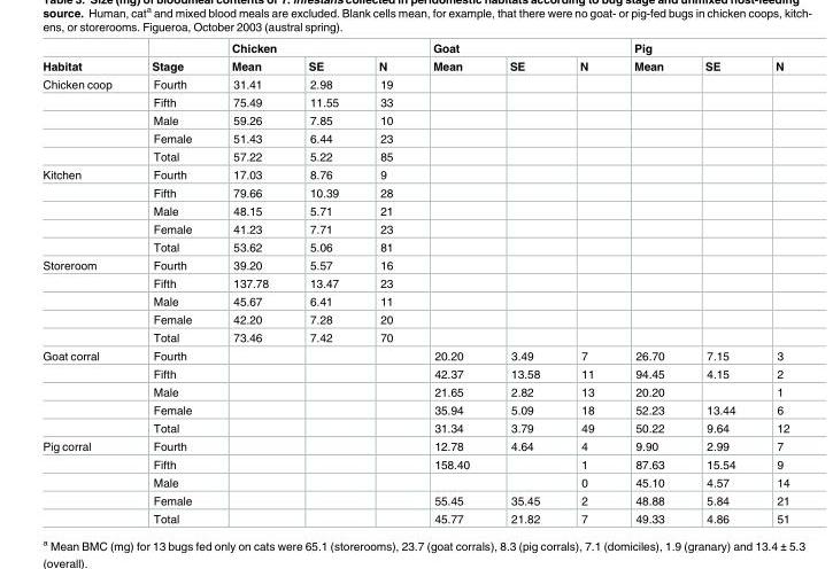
<table><thead><tr><td rowspan="2">Habitat</td><td rowspan="2">Stage</td><td colspan="3">Chicken</td><td colspan="3">Goat</td><td colspan="3">Pig</td></tr><tr><td>Mean</td><td>SE</td><td>N</td><td>Mean</td><td>SE</td><td>N</td><td>Mean</td><td>SE</td><td>N</td></tr></thead><tbody><tr><td rowspan="5">Chicken coop</td><td>Fourth</td><td>31.41</td><td>2.98</td><td>19</td><td></td><td></td><td></td><td></td><td></td><td></td></tr><tr><td>Fifth</td><td>75.49</td><td>11.55</td><td>33</td><td></td><td></td><td></td><td></td><td></td><td></td></tr><tr><td>Male</td><td>59.26</td><td>7.85</td><td>10</td><td></td><td></td><td></td><td></td><td></td><td></td></tr><tr><td>Female</td><td>51.43</td><td>6.44</td><td>23</td><td></td><td></td><td></td><td></td><td></td><td></td></tr><tr><td>Total</td><td>57.22</td><td>5.22</td><td>85</td><td></td><td></td><td></td><td></td><td></td><td></td></tr><tr><td rowspan="5">Kitchen</td><td>Fourth</td><td>17.03</td><td>8.76</td><td>9</td><td></td><td></td><td></td><td></td><td></td><td></td></tr><tr><td>Fifth</td><td>79.66</td><td>10.39</td><td>28</td><td></td><td></td><td></td><td></td><td></td><td></td></tr><tr><td>Male</td><td>48.15</td><td>5.71</td><td>21</td><td></td><td></td><td></td><td></td><td></td><td></td></tr><tr><td>Female</td><td>41.23</td><td>7.71</td><td>23</td><td></td><td></td><td></td><td></td><td></td><td></td></tr><tr><td>Total</td><td>53.62</td><td>5.06</td><td>81</td><td></td><td></td><td></td><td></td><td></td><td></td></tr><tr><td rowspan="5">Storeroom</td><td>Fourth</td><td>39.20</td><td>5.57</td><td>16</td><td></td><td></td><td></td><td></td><td></td><td></td></tr><tr><td>Fifth</td><td>137.78</td><td>13.47</td><td>23</td><td></td><td></td><td></td><td></td><td></td><td></td></tr><tr><td>Male</td><td>45.67</td><td>6.41</td><td>11</td><td></td><td></td><td></td><td></td><td></td><td></td></tr><tr><td>Female</td><td>42.20</td><td>7.28</td><td>20</td><td></td><td></td><td></td><td></td><td></td><td></td></tr><tr><td>Total</td><td>73.46</td><td>7.42</td><td>70</td><td></td><td></td><td></td><td></td><td></td><td></td></tr><tr><td rowspan="5">Goat corral</td><td>Fourth</td><td></td><td></td><td></td><td>20.20</td><td>3.49</td><td>7</td><td>26.70</td><td>7.15</td><td>3</td></tr><tr><td>Fifth</td><td></td><td></td><td></td><td>42.37</td><td>13.58</td><td>11</td><td>94.45</td><td>4.15</td><td>2</td></tr><tr><td>Male</td><td></td><td></td><td></td><td>21.65</td><td>2.82</td><td>13</td><td>20.20</td><td></td><td>1</td></tr><tr><td>Female</td><td></td><td></td><td></td><td>35.94</td><td>5.09</td><td>18</td><td>52.23</td><td>13.44</td><td>6</td></tr><tr><td>Total</td><td></td><td></td><td></td><td>31.34</td><td>3.79</td><td>49</td><td>50.22</td><td>9.64</td><td>12</td></tr><tr><td rowspan="5">Pig corral</td><td>Fourth</td><td></td><td></td><td></td><td>12.78</td><td>4.64</td><td>4</td><td>9.90</td><td>2.99</td><td>7</td></tr><tr><td>Fifth</td><td></td><td></td><td></td><td>158.40</td><td></td><td>1</td><td>87.63</td><td>15.54</td><td>9</td></tr><tr><td>Male</td><td></td><td></td><td></td><td></td><td></td><td>0</td><td>45.10</td><td>4.57</td><td>14</td></tr><tr><td>Female</td><td></td><td></td><td></td><td>55.45</td><td>35.45</td><td>2</td><td>48.88</td><td>5.84</td><td>21</td></tr><tr><td>Total</td><td></td><td></td><td></td><td>45.77</td><td>21.82</td><td>7</td><td>49.33</td><td>4.86</td><td>51</td></tr></tbody></table>